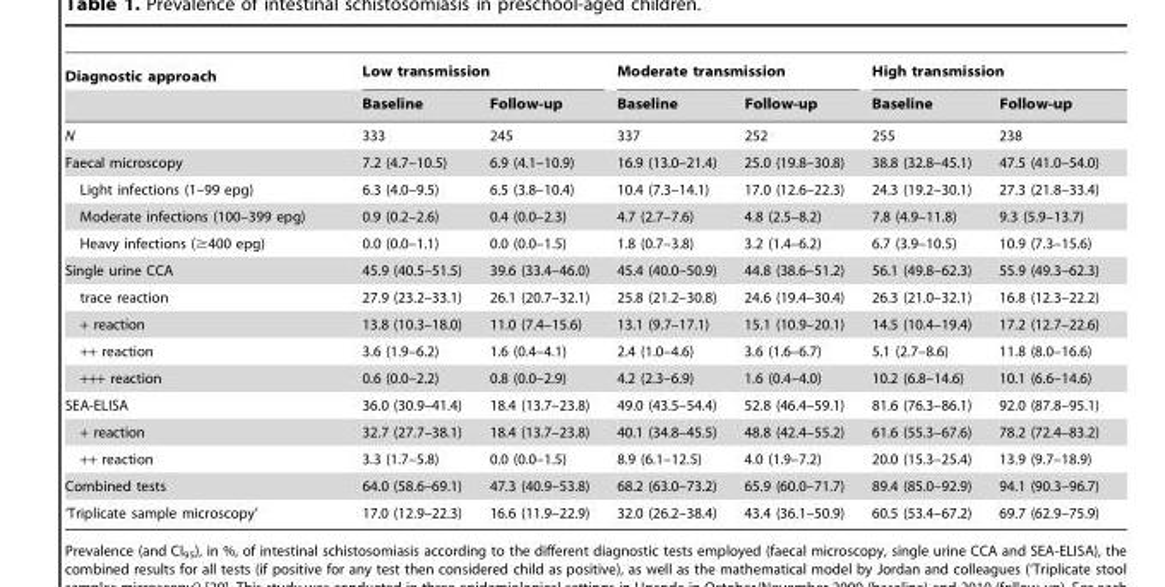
<table><thead><tr><td rowspan="2">Diagnostic approach</td><td colspan="2">Low transmission</td><td colspan="2">Moderate transmission</td><td colspan="2">High transmission</td></tr><tr><td>Baseline</td><td>Follow-up</td><td>Baseline</td><td>Follow-up</td><td>Baseline</td><td>Follow-up</td></tr></thead><tbody><tr><td>N</td><td>333</td><td>245</td><td>337</td><td>252</td><td>255</td><td>238</td></tr><tr><td>Faecal microscopy</td><td>7.2 (4.7–10.5)</td><td>6.9 (4.1–10.9)</td><td>16.9 (13.0–21.4)</td><td>25.0 (19.8–30.8)</td><td>38.8 (32.8–45.1)</td><td>47.5 (41.0–54.0)</td></tr><tr><td>Light infections (1–99 epg)</td><td>6.3 (4.0–9.5)</td><td>6.5 (3.8–10.4)</td><td>10.4 (7.3–14.1)</td><td>17.0 (12.6–22.3)</td><td>24.3 (19.2–30.1)</td><td>27.3 (21.8–33.4)</td></tr><tr><td>Moderate infections (100–399 epg)</td><td>0.9 (0.2–2.6)</td><td>0.4 (0.0–2.3)</td><td>4.7 (2.7–7.6)</td><td>4.8 (2.5–8.2)</td><td>7.8 (4.9–11.8)</td><td>9.3 (5.9–13.7)</td></tr><tr><td>Heavy infections (≥400 epg)</td><td>0.0 (0.0–1.1)</td><td>0.0 (0.0–1.5)</td><td>1.8 (0.7–3.8)</td><td>3.2 (1.4–6.2)</td><td>6.7 (3.9–10.5)</td><td>10.9 (7.3–15.6)</td></tr><tr><td>Single urine CCA</td><td>45.9 (40.5–51.5)</td><td>39.6 (33.4–46.0)</td><td>45.4 (40.0–50.9)</td><td>44.8 (38.6–51.2)</td><td>56.1 (49.8–62.3)</td><td>55.9 (49.3–62.3)</td></tr><tr><td>trace reaction</td><td>27.9 (23.2–33.1)</td><td>26.1 (20.7–32.1)</td><td>25.8 (21.2–30.8)</td><td>24.6 (19.4–30.4)</td><td>26.3 (21.0–32.1)</td><td>16.8 (12.3–22.2)</td></tr><tr><td>+ reaction</td><td>13.8 (10.3–18.0)</td><td>11.0 (7.4–15.6)</td><td>13.1 (9.7–17.1)</td><td>15.1 (10.9–20.1)</td><td>14.5 (10.4–19.4)</td><td>17.2 (12.7–22.6)</td></tr><tr><td>++ reaction</td><td>3.6 (1.9–6.2)</td><td>1.6 (0.4–4.1)</td><td>2.4 (1.0–4.6)</td><td>3.6 (1.6–6.7)</td><td>5.1 (2.7–8.6)</td><td>11.8 (8.0–16.6)</td></tr><tr><td>+++ reaction</td><td>0.6 (0.0–2.2)</td><td>0.8 (0.0–2.9)</td><td>4.2 (2.3–6.9)</td><td>1.6 (0.4–4.0)</td><td>10.2 (6.8–14.6)</td><td>10.1 (6.6–14.6)</td></tr><tr><td>SEA-ELISA</td><td>36.0 (30.9–41.4)</td><td>18.4 (13.7–23.8)</td><td>49.0 (43.5–54.4)</td><td>52.8 (46.4–59.1)</td><td>81.6 (76.3–86.1)</td><td>92.0 (87.8–95.1)</td></tr><tr><td>+ reaction</td><td>32.7 (27.7–38.1)</td><td>18.4 (13.7–23.8)</td><td>40.1 (34.8–45.5)</td><td>48.8 (42.4–55.2)</td><td>61.6 (55.3–67.6)</td><td>78.2 (72.4–83.2)</td></tr><tr><td>++ reaction</td><td>3.3 (1.7–5.8)</td><td>0.0 (0.0–1.5)</td><td>8.9 (6.1–12.5)</td><td>4.0 (1.9–7.2)</td><td>20.0 (15.3–25.4)</td><td>13.9 (9.7–18.9)</td></tr><tr><td>Combined tests</td><td>64.0 (58.6–69.1)</td><td>47.3 (40.9–53.8)</td><td>68.2 (63.0–73.2)</td><td>65.9 (60.0–71.7)</td><td>89.4 (85.0–92.9)</td><td>94.1 (90.3–96.7)</td></tr><tr><td>‘Triplicate sample microscopy’</td><td>17.0 (12.9–22.3)</td><td>16.6 (11.9–22.9)</td><td>32.0 (26.2–38.4)</td><td>43.4 (36.1–50.9)</td><td>60.5 (53.4–67.2)</td><td>69.7 (62.9–75.9)</td></tr></tbody></table>